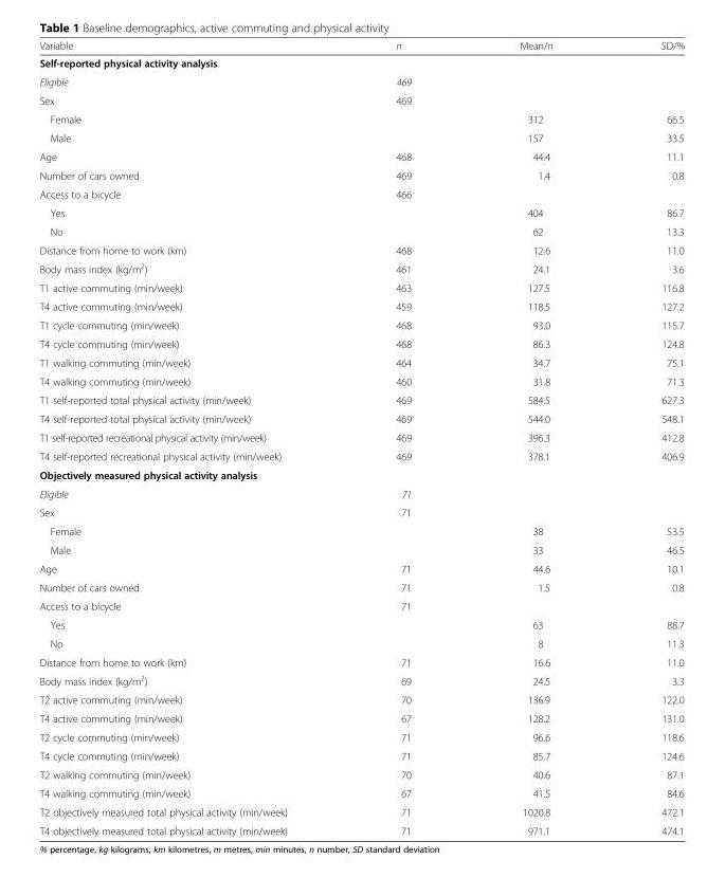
<table><thead><tr><td>Variable</td><td>n</td><td>Mean/n</td><td>SD/%</td></tr></thead><tbody><tr><td colspan="4">Self-reported physical activity analysis</td></tr><tr><td>Eligible</td><td>469</td><td></td><td></td></tr><tr><td>Sex</td><td>469</td><td></td><td></td></tr><tr><td>Female</td><td></td><td>312</td><td>66.5</td></tr><tr><td>Male</td><td></td><td>157</td><td>33.5</td></tr><tr><td>Age</td><td>468</td><td>44.4</td><td>11.1</td></tr><tr><td>Number of cars owned</td><td>469</td><td>1.4</td><td>0.8</td></tr><tr><td>Access to a bicycle</td><td>466</td><td></td><td></td></tr><tr><td>Yes</td><td></td><td>404</td><td>86.7</td></tr><tr><td>No</td><td></td><td>62</td><td>13.3</td></tr><tr><td>Distance from home to work (km)</td><td>468</td><td>12.6</td><td>11.0</td></tr><tr><td>Body mass index (kg/m<sup>2</sup>)</td><td>461</td><td>24.1</td><td>3.6</td></tr><tr><td>T1 active commuting (min/week)</td><td>463</td><td>127.5</td><td>116.8</td></tr><tr><td>T4 active commuting (min/week)</td><td>459</td><td>118.5</td><td>127.2</td></tr><tr><td>T1 cycle commuting (min/week)</td><td>468</td><td>93.0</td><td>115.7</td></tr><tr><td>T4 cycle commuting (min/week)</td><td>468</td><td>86.3</td><td>124.8</td></tr><tr><td>T1 walking commuting (min/week)</td><td>464</td><td>34.7</td><td>75.1</td></tr><tr><td>T4 walking commuting (min/week)</td><td>460</td><td>31.8</td><td>71.3</td></tr><tr><td>T1 self-reported total physical activity (min/week)</td><td>469</td><td>584.5</td><td>627.3</td></tr><tr><td>T4 self-reported total physical activity (min/week)</td><td>469</td><td>544.0</td><td>548.1</td></tr><tr><td>T1 self-reported recreational physical activity (min/week)</td><td>469</td><td>396.3</td><td>412.8</td></tr><tr><td>T4 self-reported recreational physical activity (min/week)</td><td>469</td><td>378.1</td><td>406.9</td></tr><tr><td colspan="4">Objectively measured physical activity analysis</td></tr><tr><td>Eligible</td><td>71</td><td></td><td></td></tr><tr><td>Sex</td><td>71</td><td></td><td></td></tr><tr><td>Female</td><td></td><td>38</td><td>53.5</td></tr><tr><td>Male</td><td></td><td>33</td><td>46.5</td></tr><tr><td>Age</td><td>71</td><td>44.6</td><td>10.1</td></tr><tr><td>Number of cars owned</td><td>71</td><td>1.5</td><td>0.8</td></tr><tr><td>Access to a bicycle</td><td>71</td><td></td><td></td></tr><tr><td>Yes</td><td></td><td>63</td><td>88.7</td></tr><tr><td>No</td><td></td><td>8</td><td>11.3</td></tr><tr><td>Distance from home to work (km)</td><td>71</td><td>16.6</td><td>11.0</td></tr><tr><td>Body mass index (kg/m<sup>2</sup>)</td><td>69</td><td>24.5</td><td>3.3</td></tr><tr><td>T2 active commuting (min/week)</td><td>70</td><td>136.9</td><td>122.0</td></tr><tr><td>T4 active commuting (min/week)</td><td>67</td><td>128.2</td><td>131.0</td></tr><tr><td>T2 cycle commuting (min/week)</td><td>71</td><td>96.6</td><td>118.6</td></tr><tr><td>T4 cycle commuting (min/week)</td><td>71</td><td>85.7</td><td>124.6</td></tr><tr><td>T2 walking commuting (min/week)</td><td>70</td><td>40.6</td><td>87.1</td></tr><tr><td>T4 walking commuting (min/week)</td><td>67</td><td>41.5</td><td>84.6</td></tr><tr><td>T2 objectively measured total physical activity (min/week)</td><td>71</td><td>1020.8</td><td>472.1</td></tr><tr><td>T4 objectively measured total physical activity (min/week)</td><td>71</td><td>971.1</td><td>474.1</td></tr></tbody></table>